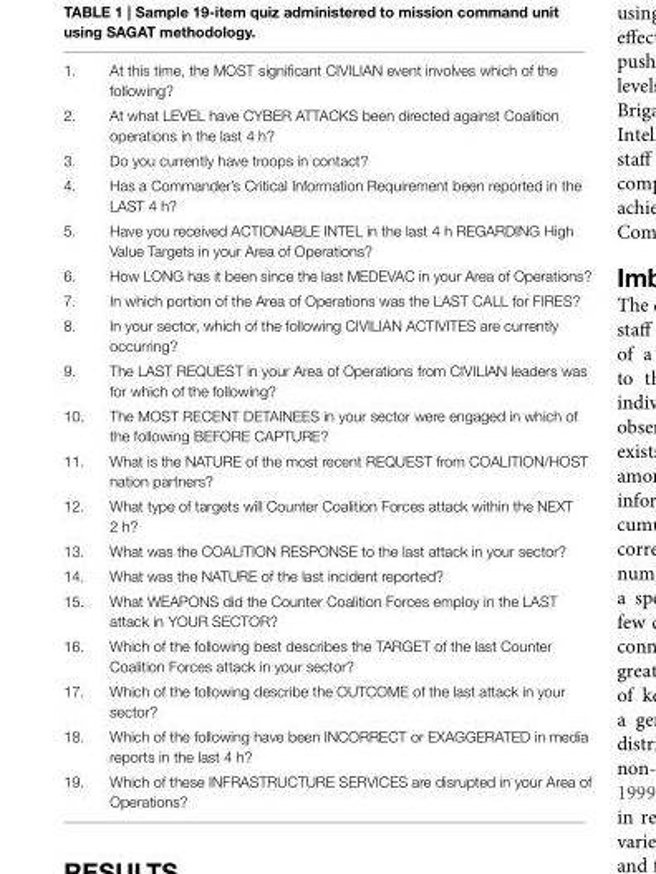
<table><tbody><tr><td>1.</td><td>At this time, the MOST significant CIVILIAN event involves which of the following?</td></tr><tr><td>2.</td><td>At what LEVEL have CYBER ATTACKS been directed against Coalition operations in the last 4 h?</td></tr><tr><td>3.</td><td>Do you currently have troops in contact?</td></tr><tr><td>4.</td><td>Has a Commander’s Critical Information Requirement been reported in the LAST 4 h?</td></tr><tr><td>5.</td><td>Have you received ACTIONABLE INTEL in the last 4 h REGARDING High Value Targets in your Area of Operations?</td></tr><tr><td>6.</td><td>How LONG has it been since the last MEDEVAC in your Area of Operations?</td></tr><tr><td>7.</td><td>In which portion of the Area of Operations was the LAST CALL for FIRES?</td></tr><tr><td>8.</td><td>In your sector, which of the following CIVILIAN ACTIVITES are currently occurring?</td></tr><tr><td>9.</td><td>The LAST REQUEST in your Area of Operations from CIVILIAN leaders was for which of the following?</td></tr><tr><td>10.</td><td>The MOST RECENT DETAINEES in your sector were engaged in which of the following BEFORE CAPTURE?</td></tr><tr><td>11.</td><td>What is the NATURE of the most recent REQUEST from COALITION/HOST nation partners?</td></tr><tr><td>12.</td><td>What type of targets will Counter Coalition Forces attack within the NEXT 2 h?</td></tr><tr><td>13.</td><td>What was the COALITION RESPONSE to the last attack in your sector?</td></tr><tr><td>14.</td><td>What was the NATURE of the last incident reported?</td></tr><tr><td>15.</td><td>What WEAPONS did the Counter Coalition Forces employ in the LAST attack in YOUR SECTOR?</td></tr><tr><td>16.</td><td>Which of the following best describes the TARGET of the last Counter Coalition Forces attack in your sector?</td></tr><tr><td>17.</td><td>Which of the following describe the OUTCOME of the last attack in your sector?</td></tr><tr><td>18.</td><td>Which of the following have been INCORRECT or EXAGGERATED in media reports in the last 4 h?</td></tr><tr><td>19.</td><td>Which of these INFRASTRUCTURE SERVICES are disrupted in your Area of Operations?</td></tr></tbody></table>